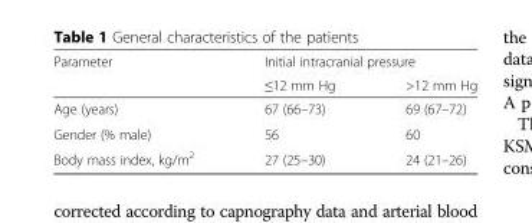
<table><thead><tr><td rowspan="2">Parameter</td><td colspan="2">Initial intracranial pressure</td></tr><tr><td>≤12 mm Hg</td><td>&gt;12 mm Hg</td></tr></thead><tbody><tr><td>Age (years)</td><td>67 (66–73)</td><td>69 (67–72)</td></tr><tr><td>Gender (% male)</td><td>56</td><td>60</td></tr><tr><td>Body mass index, kg/m<sup>2</sup></td><td>27 (25–30)</td><td>24 (21–26)</td></tr></tbody></table>